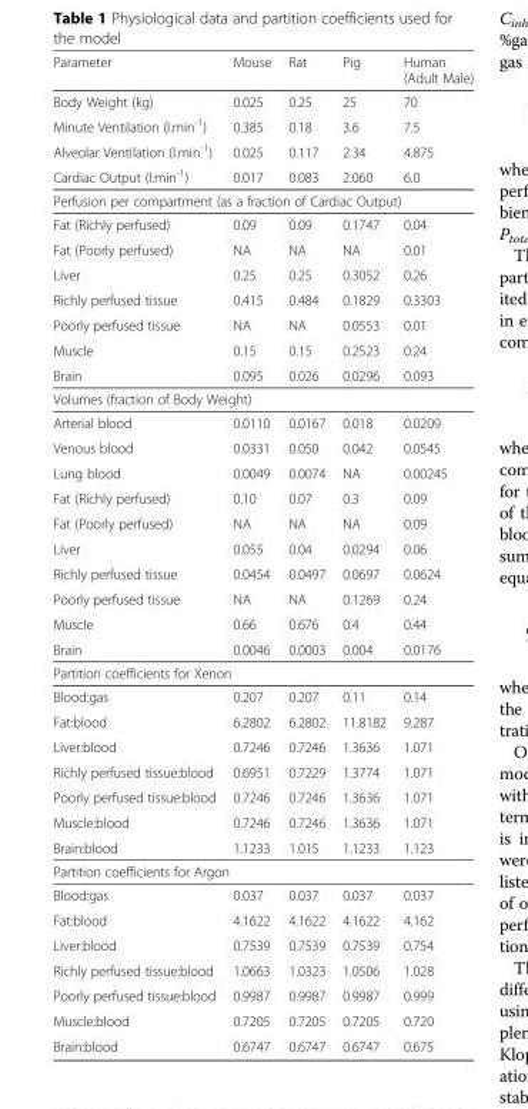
<table><thead><tr><td>Parameter</td><td>Mouse</td><td>Rat</td><td>Pig</td><td>Human (Adult Male)</td></tr></thead><tbody><tr><td>Body Weight (kg)</td><td>0.025</td><td>0.25</td><td>25</td><td>70</td></tr><tr><td>Minute Ventilation (l.min<sup>-1</sup>)</td><td>0.385</td><td>0.18</td><td>3.6</td><td>7.5</td></tr><tr><td>Alveolar Ventilation (l.min<sup>-1</sup>)</td><td>0.025</td><td>0.117</td><td>2.34</td><td>4.875</td></tr><tr><td>Cardiac Output (l.min<sup>-1</sup>)</td><td>0.017</td><td>0.083</td><td>2.060</td><td>6.0</td></tr><tr><td colspan="5">Perfusion per compartment (as a fraction of Cardiac Output)</td></tr><tr><td>Fat (Richly perfused)</td><td>0.09</td><td>0.09</td><td>0.1747</td><td>0.04</td></tr><tr><td>Fat (Poorly perfused)</td><td>NA</td><td>NA</td><td>NA</td><td>0.01</td></tr><tr><td>Liver</td><td>0.25</td><td>0.25</td><td>0.3052</td><td>0.26</td></tr><tr><td>Richly perfused tissue</td><td>0.415</td><td>0.484</td><td>0.1829</td><td>0.3303</td></tr><tr><td>Poorly perfused tissue</td><td>NA</td><td>NA</td><td>0.0553</td><td>0.01</td></tr><tr><td>Muscle</td><td>0.15</td><td>0.15</td><td>0.2523</td><td>0.24</td></tr><tr><td>Brain</td><td>0.095</td><td>0.026</td><td>0.0296</td><td>0.093</td></tr><tr><td colspan="5">Volumes (fraction of Body Weight)</td></tr><tr><td>Arterial blood</td><td>0.0110</td><td>0.0167</td><td>0.018</td><td>0.0209</td></tr><tr><td>Venous blood</td><td>0.0331</td><td>0.050</td><td>0.042</td><td>0.0545</td></tr><tr><td>Lung blood</td><td>0.0049</td><td>0.0074</td><td>NA</td><td>0.00245</td></tr><tr><td>Fat (Richly perfused)</td><td>0.10</td><td>0.07</td><td>0.3</td><td>0.09</td></tr><tr><td>Fat (Poorly perfused)</td><td>NA</td><td>NA</td><td>NA</td><td>0.09</td></tr><tr><td>Liver</td><td>0.055</td><td>0.04</td><td>0.0294</td><td>0.06</td></tr><tr><td>Richly perfused tissue</td><td>0.0454</td><td>0.0497</td><td>0.0697</td><td>0.0624</td></tr><tr><td>Poorly perfused tissue</td><td>NA</td><td>NA</td><td>0.1269</td><td>0.24</td></tr><tr><td>Muscle</td><td>0.66</td><td>0.676</td><td>0.4</td><td>0.44</td></tr><tr><td>Brain</td><td>0.0046</td><td>0.0003</td><td>0.004</td><td>0.0176</td></tr><tr><td colspan="5">Partition coefficients for Xenon</td></tr><tr><td>Blood:gas</td><td>0.207</td><td>0.207</td><td>0.11</td><td>0.14</td></tr><tr><td>Fat:blood</td><td>6.2802</td><td>6.2802</td><td>11.8182</td><td>9.287</td></tr><tr><td>Liver:blood</td><td>0.7246</td><td>0.7246</td><td>1.3636</td><td>1.071</td></tr><tr><td>Richly perfused tissue:blood</td><td>0.6951</td><td>0.7229</td><td>1.3774</td><td>1.071</td></tr><tr><td>Poorly perfused tissue:blood</td><td>0.7246</td><td>0.7246</td><td>1.3636</td><td>1.071</td></tr><tr><td>Muscle:blood</td><td>0.7246</td><td>0.7246</td><td>1.3636</td><td>1.071</td></tr><tr><td>Brain:blood</td><td>1.1233</td><td>1.015</td><td>1.1233</td><td>1.123</td></tr><tr><td colspan="5">Partition coefficients for Argon</td></tr><tr><td>Blood:gas</td><td>0.037</td><td>0.037</td><td>0.037</td><td>0.037</td></tr><tr><td>Fat:blood</td><td>4.1622</td><td>4.1622</td><td>4.1622</td><td>4.162</td></tr><tr><td>Liver:blood</td><td>0.7539</td><td>0.7539</td><td>0.7539</td><td>0.754</td></tr><tr><td>Richly perfused tissue:blood</td><td>1.0663</td><td>1.0323</td><td>1.0506</td><td>1.028</td></tr><tr><td>Poorly perfused tissue:blood</td><td>0.9987</td><td>0.9987</td><td>0.9987</td><td>0.999</td></tr><tr><td>Muscle:blood</td><td>0.7205</td><td>0.7205</td><td>0.7205</td><td>0.720</td></tr><tr><td>Brain:blood</td><td>0.6747</td><td>0.6747</td><td>0.6747</td><td>0.675</td></tr></tbody></table>